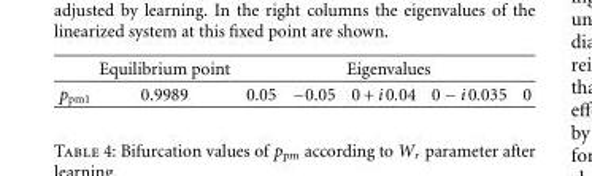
<table><thead><tr><td rowspan="2">p<sub>pm1</sub></td><td rowspan="2">Equilibrium point 0.9989</td><td colspan="5">Eigenvalues</td></tr><tr><td>0.05</td><td>−0.05</td><td>0 + i0.04</td><td>0 − i0.035</td><td>0</td></tr></thead><tbody></tbody></table>